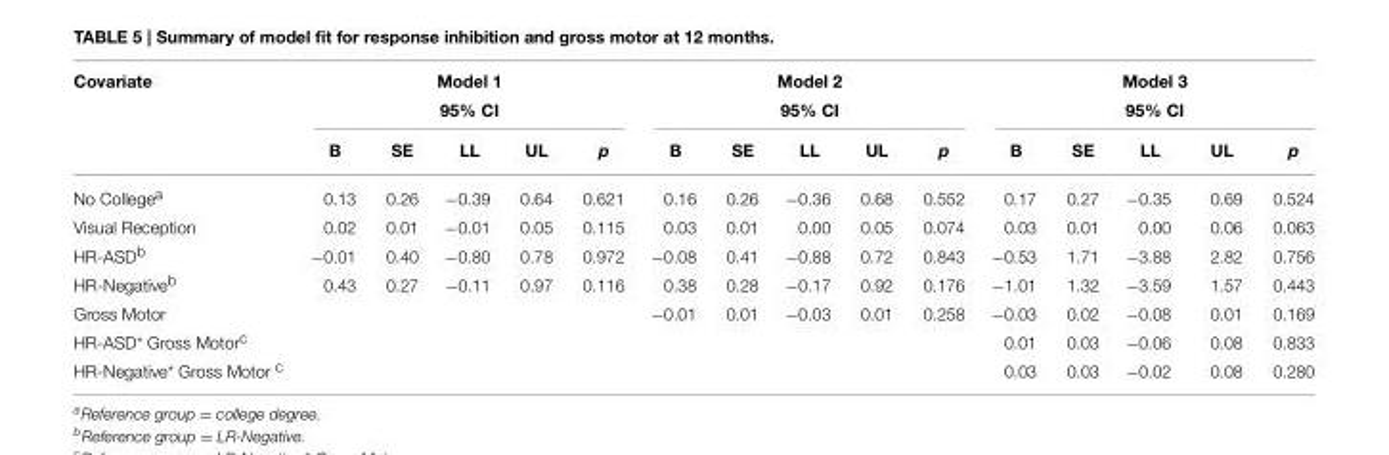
<table><thead><tr><td rowspan="2">Covariate</td><td colspan="5">Model 1 95% CI</td><td colspan="5">Model 2 95% CI</td><td colspan="5">Model 3 95% CI</td></tr><tr><td>B</td><td>SE</td><td>LL</td><td>UL</td><td>p</td><td>B</td><td>SE</td><td>LL</td><td>UL</td><td>p</td><td>B</td><td>SE</td><td>LL</td><td>UL</td><td>p</td></tr></thead><tbody><tr><td>No College<sup>a</sup></td><td>0.13</td><td>0.26</td><td>−0.39</td><td>0.64</td><td>0.621</td><td>0.16</td><td>0.26</td><td>−0.36</td><td>0.68</td><td>0.552</td><td>0.17</td><td>0.27</td><td>−0.35</td><td>0.69</td><td>0.524</td></tr><tr><td>Visual Reception</td><td>0.02</td><td>0.01</td><td>−0.01</td><td>0.05</td><td>0.115</td><td>0.03</td><td>0.01</td><td>0.00</td><td>0.05</td><td>0.074</td><td>0.03</td><td>0.01</td><td>0.00</td><td>0.06</td><td>0.063</td></tr><tr><td>HR-ASD<sup>b</sup></td><td>−0.01</td><td>0.40</td><td>−0.80</td><td>0.78</td><td>0.972</td><td>−0.08</td><td>0.41</td><td>−0.88</td><td>0.72</td><td>0.843</td><td>−0.53</td><td>1.71</td><td>−3.88</td><td>2.82</td><td>0.756</td></tr><tr><td>HR-Negative<sup>b</sup></td><td>0.43</td><td>0.27</td><td>−0.11</td><td>0.97</td><td>0.116</td><td>0.38</td><td>0.28</td><td>−0.17</td><td>0.92</td><td>0.176</td><td>−1.01</td><td>1.32</td><td>−3.59</td><td>1.57</td><td>0.443</td></tr><tr><td>Gross Motor</td><td></td><td></td><td></td><td></td><td></td><td>−0.01</td><td>0.01</td><td>−0.03</td><td>0.01</td><td>0.258</td><td>−0.03</td><td>0.02</td><td>−0.08</td><td>0.01</td><td>0.169</td></tr><tr><td>HR-ASD* Gross Motor<sup>c</sup></td><td></td><td></td><td></td><td></td><td></td><td></td><td></td><td></td><td></td><td></td><td>0.01</td><td>0.03</td><td>−0.06</td><td>0.08</td><td>0.833</td></tr><tr><td>HR-Negative* Gross Motor <sup>c</sup></td><td></td><td></td><td></td><td></td><td></td><td></td><td></td><td></td><td></td><td></td><td>0.03</td><td>0.03</td><td>−0.02</td><td>0.08</td><td>0.280</td></tr></tbody></table>